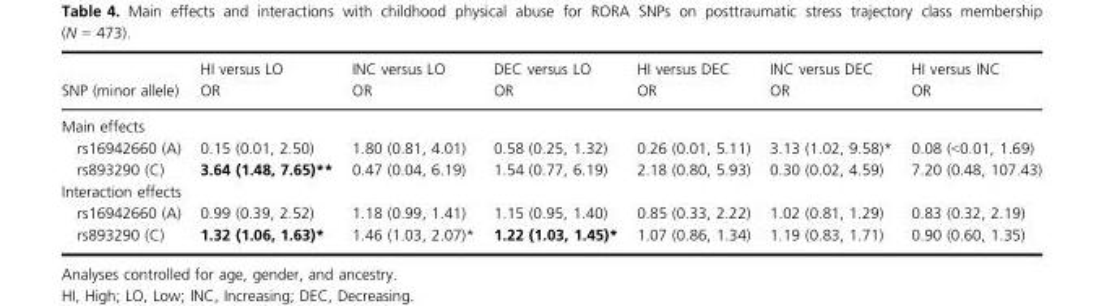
<table><thead><tr><td rowspan="2">SNP (minor allele)</td><td rowspan="2">HI versus LO OR</td><td rowspan="2">INC versus LO OR</td><td rowspan="2">DEC versus LO OR</td><td rowspan="2">HI versus DEC OR</td><td rowspan="2">INC versus DEC OR</td><td rowspan="2">HI versus INC OR</td></tr><tr></tr></thead><tbody><tr><td colspan="7">Main effects</td></tr><tr><td>rs16942660 (A)</td><td>0.15 (0.01, 2.50)</td><td>1.80 (0.81, 4.01)</td><td>0.58 (0.25, 1.32)</td><td>0.26 (0.01, 5.11)</td><td>3.13 (1.02, 9.58)*</td><td>0.08 (&lt;0.01, 1.69)</td></tr><tr><td>rs893290 (C)</td><td>3.64 (1.48, 7.65)**</td><td>0.47 (0.04, 6.19)</td><td>1.54 (0.77, 6.19)</td><td>2.18 (0.80, 5.93)</td><td>0.30 (0.02, 4.59)</td><td>7.20 (0.48, 107.43)</td></tr><tr><td colspan="7">Interaction effects</td></tr><tr><td>rs16942660 (A)</td><td>0.99 (0.39, 2.52)</td><td>1.18 (0.99, 1.41)</td><td>1.15 (0.95, 1.40)</td><td>0.85 (0.33, 2.22)</td><td>1.02 (0.81, 1.29)</td><td>0.83 (0.32, 2.19)</td></tr><tr><td>rs893290 (C)</td><td>1.32 (1.06, 1.63)*</td><td>1.46 (1.03, 2.07)*</td><td>1.22 (1.03, 1.45)*</td><td>1.07 (0.86, 1.34)</td><td>1.19 (0.83, 1.71)</td><td>0.90 (0.60, 1.35)</td></tr></tbody></table>